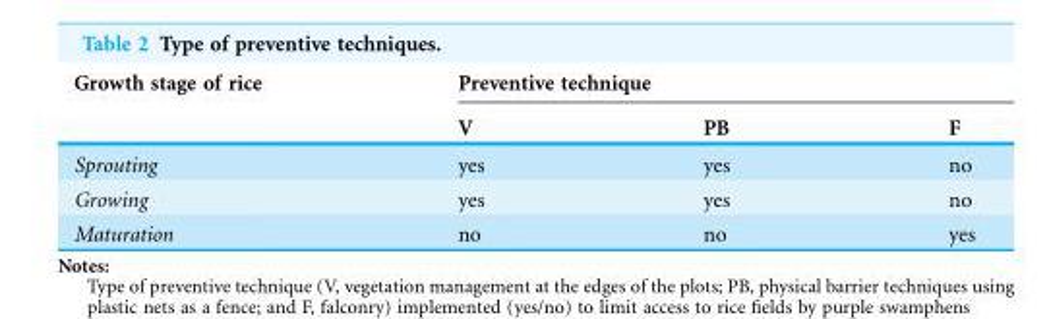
<table><thead><tr><td rowspan="2">Growth stage of rice</td><td colspan="3">Preventive technique</td></tr><tr><td>V</td><td>PB</td><td>F</td></tr></thead><tbody><tr><td>Sprouting</td><td>yes</td><td>yes</td><td>no</td></tr><tr><td>Growing</td><td>yes</td><td>yes</td><td>no</td></tr><tr><td>Maturation</td><td>no</td><td>no</td><td>yes</td></tr></tbody></table>